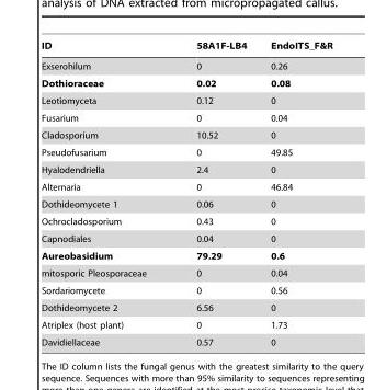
<table><thead><tr><td>ID</td><td>58A1F-LB4</td><td>EndoITS_F&amp;R</td></tr></thead><tbody><tr><td>Exserohilum</td><td>0</td><td>0.26</td></tr><tr><td>Dothioraceae</td><td>0.02</td><td>0.08</td></tr><tr><td>Leotiomyceta</td><td>0.12</td><td>0</td></tr><tr><td>Fusarium</td><td>0</td><td>0.04</td></tr><tr><td>Cladosporium</td><td>10.52</td><td>0</td></tr><tr><td>Pseudofusarium</td><td>0</td><td>49.85</td></tr><tr><td>Hyalodendriella</td><td>2.4</td><td>0</td></tr><tr><td>Alternaria</td><td>0</td><td>46.84</td></tr><tr><td>Dothideomycete 1</td><td>0.06</td><td>0</td></tr><tr><td>Ochrocladosporium</td><td>0.43</td><td>0</td></tr><tr><td>Capnodiales</td><td>0.04</td><td>0</td></tr><tr><td>Aureobasidium</td><td>79.29</td><td>0.6</td></tr><tr><td>mitosporic Pleosporaceae</td><td>0</td><td>0.04</td></tr><tr><td>Sordariomycete</td><td>0</td><td>0.56</td></tr><tr><td>Dothideomycete 2</td><td>6.56</td><td>0</td></tr><tr><td>Atriplex (host plant)</td><td>0</td><td>1.73</td></tr><tr><td>Davidiellaceae</td><td>0.57</td><td>0</td></tr></tbody></table>